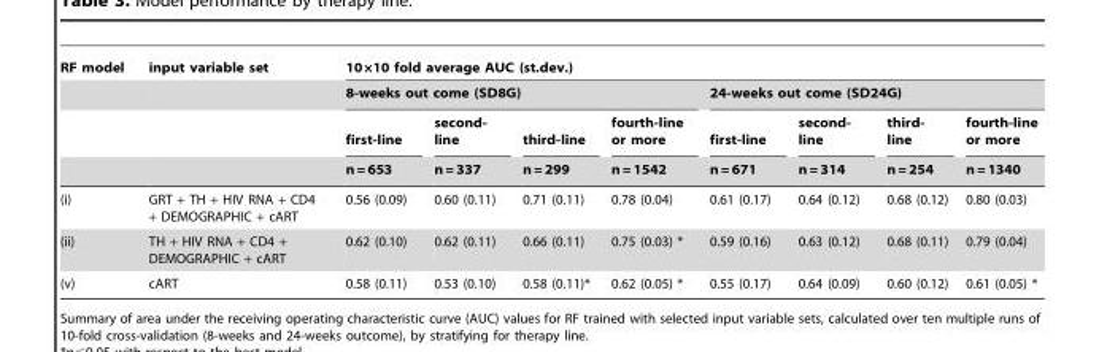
<table><thead><tr><td rowspan="4">RF model</td><td rowspan="4">input variable set</td><td colspan="8">10×10 fold average AUC (st.dev.)</td></tr><tr><td colspan="4">8-weeks out come (SD8G)</td><td colspan="4">24-weeks out come (SD24G)</td></tr><tr><td rowspan="2">first-line n = 653</td><td rowspan="2">second- line n = 337</td><td rowspan="2">third-line n = 299</td><td rowspan="2">fourth-line or more n = 1542</td><td rowspan="2">first-line n = 671</td><td rowspan="2">second- line n = 314</td><td rowspan="2">third- line n = 254</td><td rowspan="2">fourth-line or more n = 1340</td></tr><tr></tr></thead><tbody><tr><td>(i)</td><td>GRT + TH + HIV RNA + CD4 + DEMOGRAPHIC + cART</td><td>0.56 (0.09)</td><td>0.60 (0.11)</td><td>0.71 (0.11)</td><td>0.78 (0.04)</td><td>0.61 (0.17)</td><td>0.64 (0.12)</td><td>0.68 (0.12)</td><td>0.80 (0.03)</td></tr><tr><td>(ii)</td><td>TH + HIV RNA + CD4 + DEMOGRAPHIC + cART</td><td>0.62 (0.10)</td><td>0.62 (0.11)</td><td>0.66 (0.11)</td><td>0.75 (0.03) *</td><td>0.59 (0.16)</td><td>0.63 (0.12)</td><td>0.68 (0.11)</td><td>0.79 (0.04)</td></tr><tr><td>(v)</td><td>cART</td><td>0.58 (0.11)</td><td>0.53 (0.10)</td><td>0.58 (0.11)*</td><td>0.62 (0.05) *</td><td>0.55 (0.17)</td><td>0.64 (0.09)</td><td>0.60 (0.12)</td><td>0.61 (0.05) *</td></tr></tbody></table>